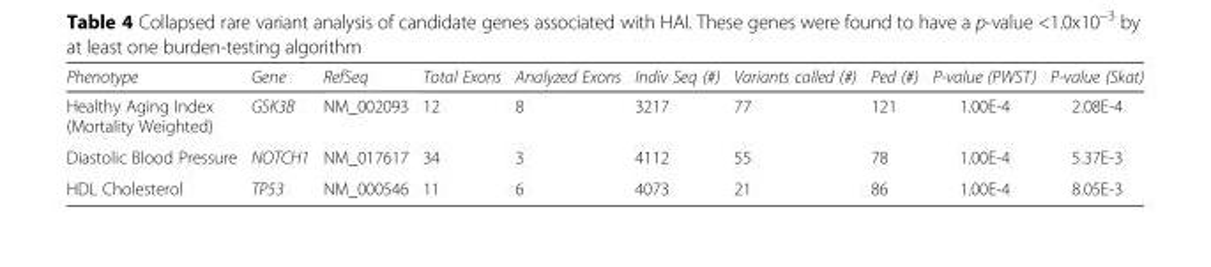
<table><thead><tr><td>Phenotype</td><td>Gene</td><td>RefSeq</td><td>Total Exons</td><td>Analyzed Exons</td><td>Indiv Seq (#)</td><td>Variants called (#)</td><td>Ped (#)</td><td>P-value (PWST)</td><td>P-value (Skat)</td></tr></thead><tbody><tr><td>Healthy Aging Index (Mortality Weighted)</td><td>GSK3B</td><td>NM_002093</td><td>12</td><td>8</td><td>3217</td><td>77</td><td>121</td><td>1.00E-4</td><td>2.08E-4</td></tr><tr><td>Diastolic Blood Pressure</td><td>NOTCH1</td><td>NM_017617</td><td>34</td><td>3</td><td>4112</td><td>55</td><td>78</td><td>1.00E-4</td><td>5.37E-3</td></tr><tr><td>HDL Cholesterol</td><td>TP53</td><td>NM_000546</td><td>11</td><td>6</td><td>4073</td><td>21</td><td>86</td><td>1.00E-4</td><td>8.05E-3</td></tr></tbody></table>